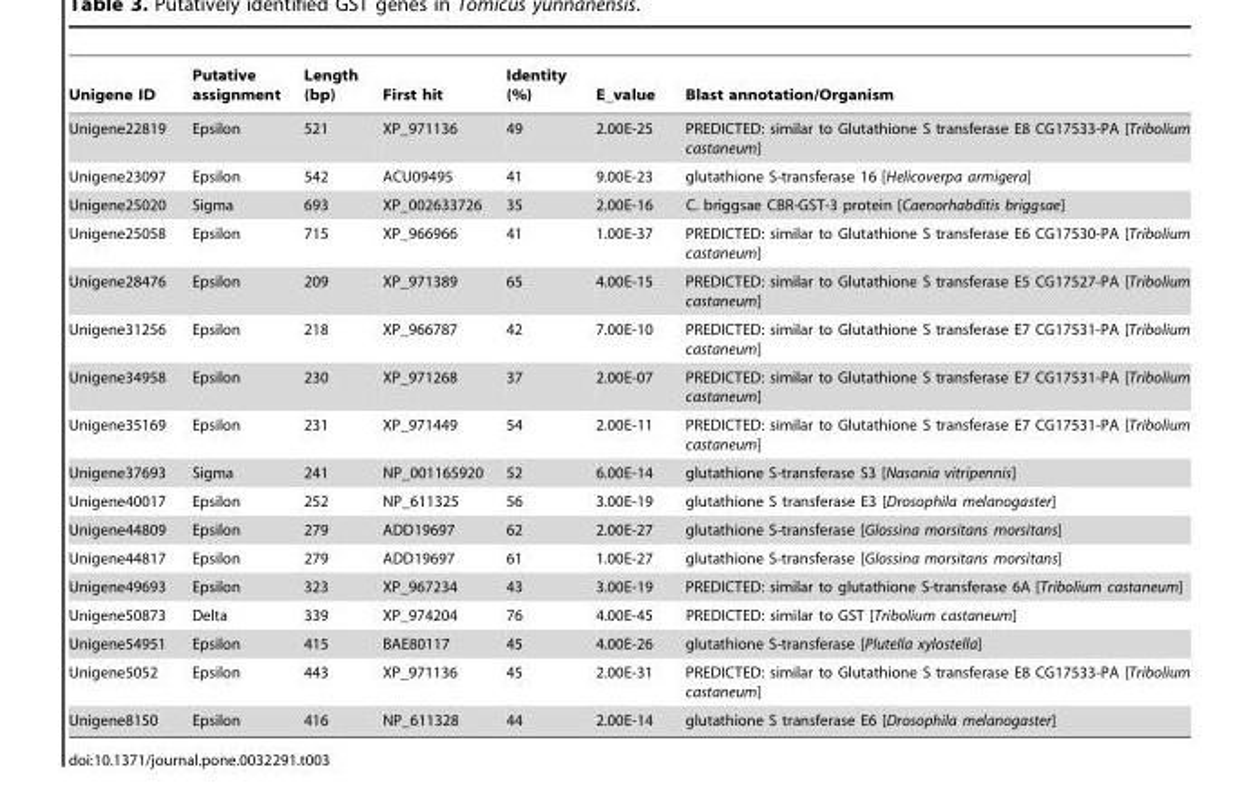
<table><thead><tr><td>Unigene ID</td><td>Putative assignment</td><td>Length (bp)</td><td>First hit</td><td>Identity (%)</td><td>E_value</td><td>Blast annotation/Organism</td></tr></thead><tbody><tr><td>Unigene22819</td><td>Epsilon</td><td>521</td><td>XP_971136</td><td>49</td><td>2.00E-25</td><td>PREDICTED: similar to Glutathione S transferase E8 CG17533-PA [Tribolium castaneum]</td></tr><tr><td>Unigene23097</td><td>Epsilon</td><td>542</td><td>ACU09495</td><td>41</td><td>9.00E-23</td><td>glutathione S-transferase 16 [Helicoverpa armigera]</td></tr><tr><td>Unigene25020</td><td>Sigma</td><td>693</td><td>XP_002633726</td><td>35</td><td>2.00E-16</td><td>C. briggsae CBR-GST-3 protein [Caenorhabditis briggsae]</td></tr><tr><td>Unigene25058</td><td>Epsilon</td><td>715</td><td>XP_966966</td><td>41</td><td>1.00E-37</td><td>PREDICTED: similar to Glutathione S transferase E6 CG17530-PA [Tribolium castaneum]</td></tr><tr><td>Unigene28476</td><td>Epsilon</td><td>209</td><td>XP_971389</td><td>65</td><td>4.00E-15</td><td>PREDICTED: similar to Glutathione S transferase E5 CG17527-PA [Tribolium castaneum]</td></tr><tr><td>Unigene31256</td><td>Epsilon</td><td>218</td><td>XP_966787</td><td>42</td><td>7.00E-10</td><td>PREDICTED: similar to Glutathione S transferase E7 CG17531-PA [Tribolium castaneum]</td></tr><tr><td>Unigene34958</td><td>Epsilon</td><td>230</td><td>XP_971268</td><td>37</td><td>2.00E-07</td><td>PREDICTED: similar to Glutathione S transferase E7 CG17531-PA [Tribolium castaneum]</td></tr><tr><td>Unigene35169</td><td>Epsilon</td><td>231</td><td>XP_971449</td><td>54</td><td>2.00E-11</td><td>PREDICTED: similar to Glutathione S transferase E7 CG17531-PA [Tribolium castaneum]</td></tr><tr><td>Unigene37693</td><td>Sigma</td><td>241</td><td>NP_001165920</td><td>52</td><td>6.00E-14</td><td>glutathione S-transferase S3 [Nasonia vitripennis]</td></tr><tr><td>Unigene40017</td><td>Epsilon</td><td>252</td><td>NP_611325</td><td>56</td><td>3.00E-19</td><td>glutathione S transferase E3 [Drosophila melanogaster]</td></tr><tr><td>Unigene44809</td><td>Epsilon</td><td>279</td><td>ADD19697</td><td>62</td><td>2.00E-27</td><td>glutathione S-transferase [Glossina morsitans morsitans]</td></tr><tr><td>Unigene44817</td><td>Epsilon</td><td>279</td><td>ADD19697</td><td>61</td><td>1.00E-27</td><td>glutathione S-transferase [Glossina morsitans morsitans]</td></tr><tr><td>Unigene49693</td><td>Epsilon</td><td>323</td><td>XP_967234</td><td>43</td><td>3.00E-19</td><td>PREDICTED: similar to glutathione S-transferase 6A [Tribolium castaneum]</td></tr><tr><td>Unigene50873</td><td>Delta</td><td>339</td><td>XP_974204</td><td>76</td><td>4.00E-45</td><td>PREDICTED: similar to GST [Tribolium castaneum]</td></tr><tr><td>Unigene54951</td><td>Epsilon</td><td>415</td><td>BAE80117</td><td>45</td><td>4.00E-26</td><td>glutathione S-transferase [Plutella xylostella]</td></tr><tr><td>Unigene5052</td><td>Epsilon</td><td>443</td><td>XP_971136</td><td>45</td><td>2.00E-31</td><td>PREDICTED: similar to Glutathione S transferase E8 CG17533-PA [Tribolium castaneum]</td></tr><tr><td>Unigene8150</td><td>Epsilon</td><td>416</td><td>NP_611328</td><td>44</td><td>2.00E-14</td><td>glutathione S transferase E6 [Drosophila melanogaster]</td></tr></tbody></table>